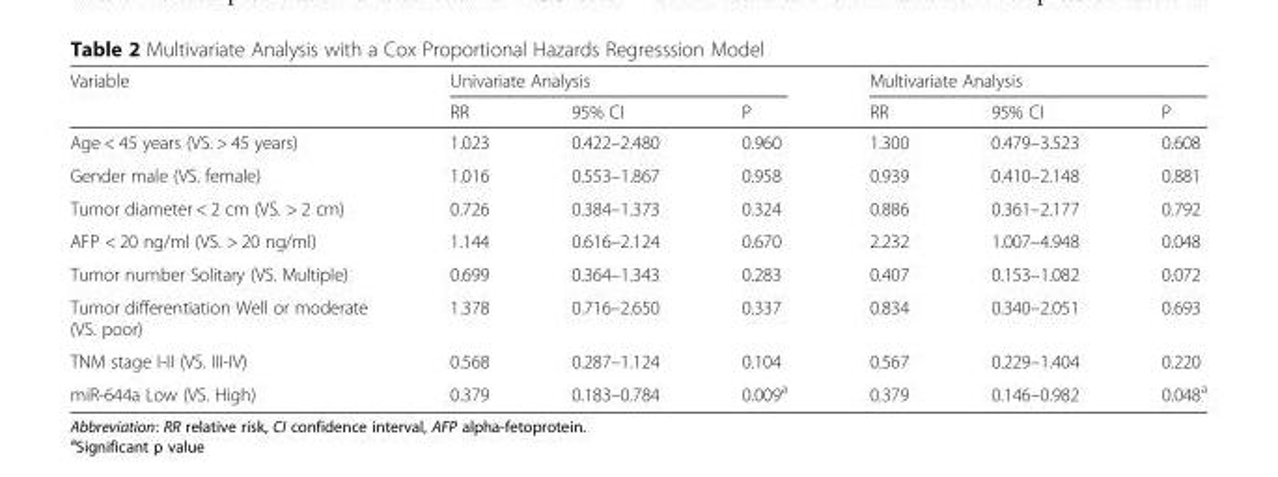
<table><thead><tr><td rowspan="2">Variable</td><td colspan="3">Univariate Analysis</td><td colspan="3">Multivariate Analysis</td></tr><tr><td>RR</td><td>95% CI</td><td>P</td><td>RR</td><td>95% CI</td><td>P</td></tr></thead><tbody><tr><td>Age &lt; 45 years (VS. &gt; 45 years)</td><td>1.023</td><td>0.422–2.480</td><td>0.960</td><td>1.300</td><td>0.479–3.523</td><td>0.608</td></tr><tr><td>Gender male (VS. female)</td><td>1.016</td><td>0.553–1.867</td><td>0.958</td><td>0.939</td><td>0.410–2.148</td><td>0.881</td></tr><tr><td>Tumor diameter &lt; 2 cm (VS. &gt; 2 cm)</td><td>0.726</td><td>0.384–1.373</td><td>0.324</td><td>0.886</td><td>0.361–2.177</td><td>0.792</td></tr><tr><td>AFP &lt; 20 ng/ml (VS. &gt; 20 ng/ml)</td><td>1.144</td><td>0.616–2.124</td><td>0.670</td><td>2.232</td><td>1.007–4.948</td><td>0.048</td></tr><tr><td>Tumor number Solitary (VS. Multiple)</td><td>0.699</td><td>0.364–1.343</td><td>0.283</td><td>0.407</td><td>0.153–1.082</td><td>0.072</td></tr><tr><td>Tumor differentiation Well or moderate (VS. poor)</td><td>1.378</td><td>0.716–2.650</td><td>0.337</td><td>0.834</td><td>0.340–2.051</td><td>0.693</td></tr><tr><td>TNM stage I-II (VS. III-IV)</td><td>0.568</td><td>0.287–1.124</td><td>0.104</td><td>0.567</td><td>0.229–1.404</td><td>0.220</td></tr><tr><td>miR-644a Low (VS. High)</td><td>0.379</td><td>0.183–0.784</td><td>0.009<sup>a</sup></td><td>0.379</td><td>0.146–0.982</td><td>0.048<sup>a</sup></td></tr></tbody></table>